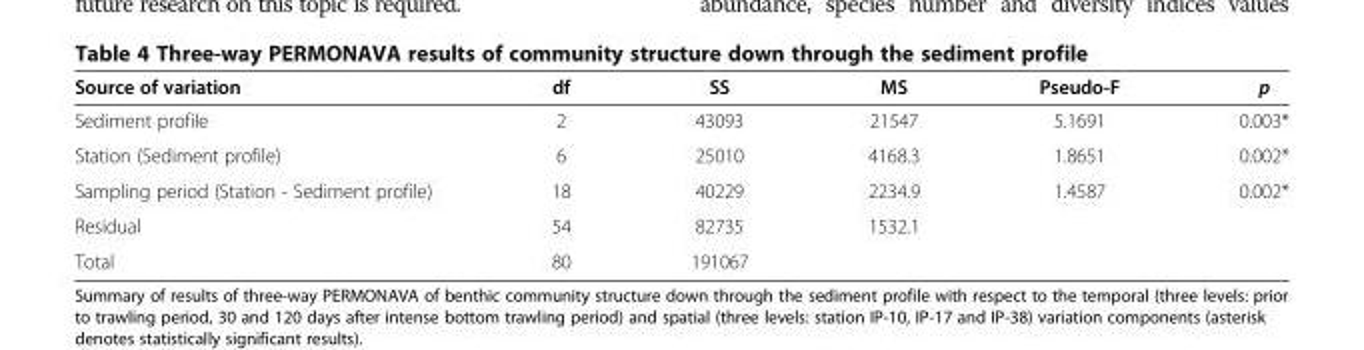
<table><thead><tr><td>Source of variation</td><td>df</td><td>SS</td><td>MS</td><td>Pseudo-F</td><td>p</td></tr></thead><tbody><tr><td>Sediment profile</td><td>2</td><td>43093</td><td>21547</td><td>5.1691</td><td>0.003*</td></tr><tr><td>Station (Sediment profile)</td><td>6</td><td>25010</td><td>4168.3</td><td>1.8651</td><td>0.002*</td></tr><tr><td>Sampling period (Station - Sediment profile)</td><td>18</td><td>40229</td><td>2234.9</td><td>1.4587</td><td>0.002*</td></tr><tr><td>Residual</td><td>54</td><td>82735</td><td>1532.1</td><td></td><td></td></tr><tr><td>Total</td><td>80</td><td>191067</td><td></td><td></td><td></td></tr></tbody></table>